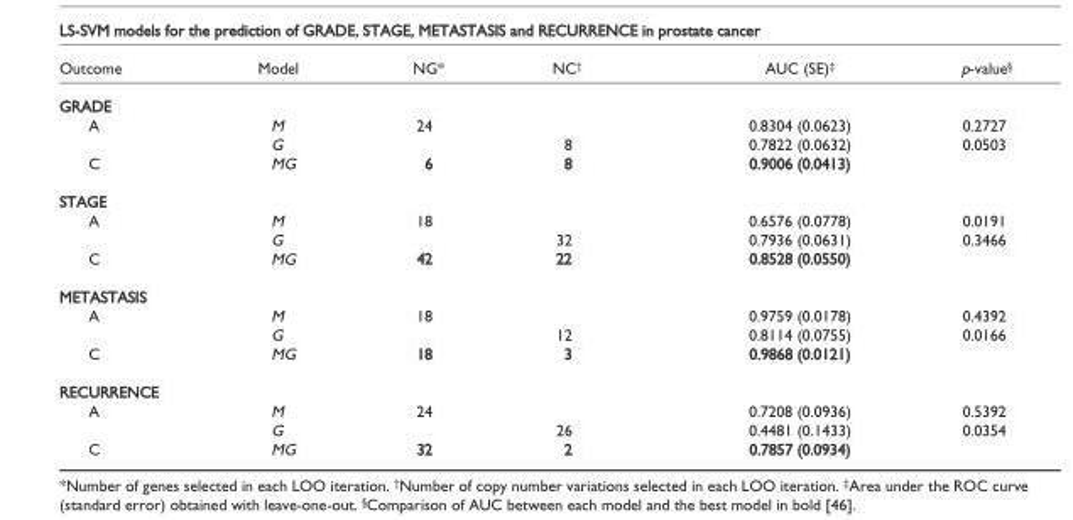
<table><thead><tr><td>Outcome</td><td>Model</td><td>NG*</td><td>NC<sup>†</sup></td><td>AUC (SE)<sup>‡</sup></td><td>p-value<sup>§</sup></td></tr></thead><tbody><tr><td colspan="6">GRADE</td></tr><tr><td rowspan="2">A</td><td>M</td><td>24</td><td></td><td>0.8304 (0.0623)</td><td>0.2727</td></tr><tr><td>G</td><td></td><td>8</td><td>0.7822 (0.0632)</td><td>0.0503</td></tr><tr><td>C</td><td>MG</td><td>6</td><td>8</td><td>0.9006 (0.0413)</td><td></td></tr><tr><td colspan="6">STAGE</td></tr><tr><td rowspan="2">A</td><td>M</td><td>18</td><td></td><td>0.6576 (0.0778)</td><td>0.0191</td></tr><tr><td>G</td><td></td><td>32</td><td>0.7936 (0.0631)</td><td>0.3466</td></tr><tr><td>C</td><td>MG</td><td>42</td><td>22</td><td>0.8528 (0.0550)</td><td></td></tr><tr><td colspan="6">METASTASIS</td></tr><tr><td rowspan="2">A</td><td>M</td><td>18</td><td></td><td>0.9759 (0.0178)</td><td>0.4392</td></tr><tr><td>G</td><td></td><td>12</td><td>0.8114 (0.0755)</td><td>0.0166</td></tr><tr><td>C</td><td>MG</td><td>18</td><td>3</td><td>0.9868 (0.0121)</td><td></td></tr><tr><td colspan="6">RECURRENCE</td></tr><tr><td rowspan="2">A</td><td>M</td><td>24</td><td></td><td>0.7208 (0.0936)</td><td>0.5392</td></tr><tr><td>G</td><td></td><td>26</td><td>0.4481 (0.1433)</td><td>0.0354</td></tr><tr><td>C</td><td>MG</td><td>32</td><td>2</td><td>0.7857 (0.0934)</td><td></td></tr></tbody></table>